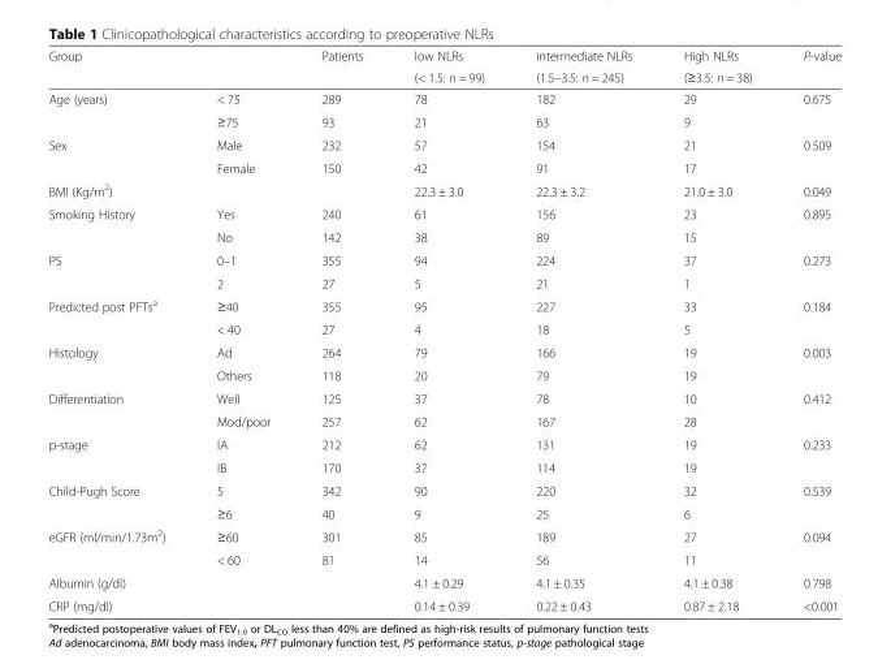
<table><thead><tr><td rowspan="2">Group</td><td rowspan="2"></td><td rowspan="2">Patients</td><td rowspan="2">low NLRs (&lt; 1.5: n = 99)</td><td rowspan="2">intermediate NLRs (1.5–3.5: n = 245)</td><td rowspan="2">High NLRs (≥3.5: n = 38)</td><td rowspan="2">P-value</td></tr><tr></tr></thead><tbody><tr><td rowspan="2">Age (years)</td><td>&lt; 75</td><td>289</td><td>78</td><td>182</td><td>29</td><td>0.675</td></tr><tr><td>≥75</td><td>93</td><td>21</td><td>63</td><td>9</td><td></td></tr><tr><td rowspan="2">Sex</td><td>Male</td><td>232</td><td>57</td><td>154</td><td>21</td><td>0.509</td></tr><tr><td>Female</td><td>150</td><td>42</td><td>91</td><td>17</td><td></td></tr><tr><td>BMI (Kg/m<sup>2</sup>)</td><td></td><td></td><td>22.3 ± 3.0</td><td>22.3 ± 3.2</td><td>21.0 ± 3.0</td><td>0.049</td></tr><tr><td rowspan="2">Smoking History</td><td>Yes</td><td>240</td><td>61</td><td>156</td><td>23</td><td>0.895</td></tr><tr><td>No</td><td>142</td><td>38</td><td>89</td><td>15</td><td></td></tr><tr><td rowspan="2">PS</td><td>0–1</td><td>355</td><td>94</td><td>224</td><td>37</td><td>0.273</td></tr><tr><td>2</td><td>27</td><td>5</td><td>21</td><td>1</td><td></td></tr><tr><td rowspan="2">Predicted post PFTs<sup>a</sup></td><td>≥40</td><td>355</td><td>95</td><td>227</td><td>33</td><td>0.184</td></tr><tr><td>&lt; 40</td><td>27</td><td>4</td><td>18</td><td>5</td><td></td></tr><tr><td rowspan="2">Histology</td><td>Ad</td><td>264</td><td>79</td><td>166</td><td>19</td><td>0.003</td></tr><tr><td>Others</td><td>118</td><td>20</td><td>79</td><td>19</td><td></td></tr><tr><td rowspan="2">Differentiation</td><td>Well</td><td>125</td><td>37</td><td>78</td><td>10</td><td>0.412</td></tr><tr><td>Mod/poor</td><td>257</td><td>62</td><td>167</td><td>28</td><td></td></tr><tr><td rowspan="2">p-stage</td><td>IA</td><td>212</td><td>62</td><td>131</td><td>19</td><td>0.233</td></tr><tr><td>IB</td><td>170</td><td>37</td><td>114</td><td>19</td><td></td></tr><tr><td rowspan="2">Child-Pugh Score</td><td>5</td><td>342</td><td>90</td><td>220</td><td>32</td><td>0.539</td></tr><tr><td>≥6</td><td>40</td><td>9</td><td>25</td><td>6</td><td></td></tr><tr><td rowspan="2">eGFR (ml/min/1.73m<sup>2</sup>)</td><td>≥60</td><td>301</td><td>85</td><td>189</td><td>27</td><td>0.094</td></tr><tr><td>&lt; 60</td><td>81</td><td>14</td><td>56</td><td>11</td><td></td></tr><tr><td>Albumin (g/dl)</td><td></td><td></td><td>4.1 ± 0.29</td><td>4.1 ± 0.35</td><td>4.1 ± 0.38</td><td>0.798</td></tr><tr><td>CRP (mg/dl)</td><td></td><td></td><td>0.14 ± 0.39</td><td>0.22 ± 0.43</td><td>0.87 ± 2.18</td><td>&lt;0.001</td></tr></tbody></table>